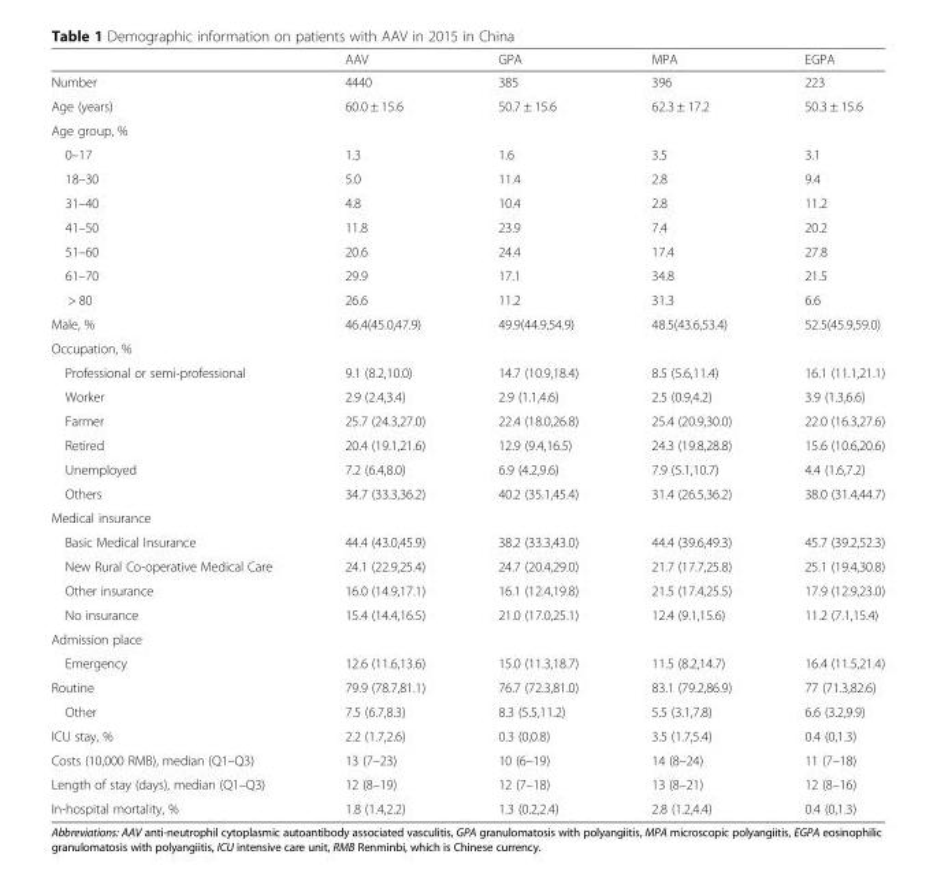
<table><thead><tr><td></td><td>AAV</td><td>GPA</td><td>MPA</td><td>EGPA</td></tr></thead><tbody><tr><td>Number</td><td>4440</td><td>385</td><td>396</td><td>223</td></tr><tr><td>Age (years)</td><td>60.0 ± 15.6</td><td>50.7 ± 15.6</td><td>62.3 ± 17.2</td><td>50.3 ± 15.6</td></tr><tr><td colspan="5">Age group, %</td></tr><tr><td>0–17</td><td>1.3</td><td>1.6</td><td>3.5</td><td>3.1</td></tr><tr><td>18–30</td><td>5.0</td><td>11.4</td><td>2.8</td><td>9.4</td></tr><tr><td>31–40</td><td>4.8</td><td>10.4</td><td>2.8</td><td>11.2</td></tr><tr><td>41–50</td><td>11.8</td><td>23.9</td><td>7.4</td><td>20.2</td></tr><tr><td>51–60</td><td>20.6</td><td>24.4</td><td>17.4</td><td>27.8</td></tr><tr><td>61–70</td><td>29.9</td><td>17.1</td><td>34.8</td><td>21.5</td></tr><tr><td>&gt; 80</td><td>26.6</td><td>11.2</td><td>31.3</td><td>6.6</td></tr><tr><td>Male, %</td><td>46.4(45.0,47.9)</td><td>49.9(44.9,54.9)</td><td>48.5(43.6,53.4)</td><td>52.5(45.9,59.0)</td></tr><tr><td colspan="5">Occupation, %</td></tr><tr><td>Professional or semi-professional</td><td>9.1 (8.2,10.0)</td><td>14.7 (10.9,18.4)</td><td>8.5 (5.6,11.4)</td><td>16.1 (11.1,21.1)</td></tr><tr><td>Worker</td><td>2.9 (2.4,3.4)</td><td>2.9 (1.1,4.6)</td><td>2.5 (0.9,4.2)</td><td>3.9 (1.3,6.6)</td></tr><tr><td>Farmer</td><td>25.7 (24.3,27.0)</td><td>22.4 (18.0,26.8)</td><td>25.4 (20.9,30.0)</td><td>22.0 (16.3,27.6)</td></tr><tr><td>Retired</td><td>20.4 (19.1,21.6)</td><td>12.9 (9.4,16.5)</td><td>24.3 (19.8,28.8)</td><td>15.6 (10.6,20.6)</td></tr><tr><td>Unemployed</td><td>7.2 (6.4,8.0)</td><td>6.9 (4.2,9.6)</td><td>7.9 (5.1,10.7)</td><td>4.4 (1.6,7.2)</td></tr><tr><td>Others</td><td>34.7 (33.3,36.2)</td><td>40.2 (35.1,45.4)</td><td>31.4 (26.5,36.2)</td><td>38.0 (31.4,44.7)</td></tr><tr><td colspan="5">Medical insurance</td></tr><tr><td>Basic Medical Insurance</td><td>44.4 (43.0,45.9)</td><td>38.2 (33.3,43.0)</td><td>44.4 (39.6,49.3)</td><td>45.7 (39.2,52.3)</td></tr><tr><td>New Rural Co-operative Medical Care</td><td>24.1 (22.9,25.4)</td><td>24.7 (20.4,29.0)</td><td>21.7 (17.7,25.8)</td><td>25.1 (19.4,30.8)</td></tr><tr><td>Other insurance</td><td>16.0 (14.9,17.1)</td><td>16.1 (12.4,19.8)</td><td>21.5 (17.4,25.5)</td><td>17.9 (12.9,23.0)</td></tr><tr><td>No insurance</td><td>15.4 (14.4,16.5)</td><td>21.0 (17.0,25.1)</td><td>12.4 (9.1,15.6)</td><td>11.2 (7.1,15.4)</td></tr><tr><td colspan="5">Admission place</td></tr><tr><td>Emergency</td><td>12.6 (11.6,13.6)</td><td>15.0 (11.3,18.7)</td><td>11.5 (8.2,14.7)</td><td>16.4 (11.5,21.4)</td></tr><tr><td>Routine</td><td>79.9 (78.7,81.1)</td><td>76.7 (72.3,81.0)</td><td>83.1 (79.2,86.9)</td><td>77 (71.3,82.6)</td></tr><tr><td>Other</td><td>7.5 (6.7,8.3)</td><td>8.3 (5.5,11.2)</td><td>5.5 (3.1,7.8)</td><td>6.6 (3.2,9.9)</td></tr><tr><td>ICU stay, %</td><td>2.2 (1.7,2.6)</td><td>0.3 (0,0.8)</td><td>3.5 (1.7,5.4)</td><td>0.4 (0,1.3)</td></tr><tr><td>Costs (10,000 RMB), median (Q1–Q3)</td><td>13 (7–23)</td><td>10 (6–19)</td><td>14 (8–24)</td><td>11 (7–18)</td></tr><tr><td>Length of stay (days), median (Q1–Q3)</td><td>12 (8–19)</td><td>12 (7–18)</td><td>13 (8–21)</td><td>12 (8–16)</td></tr><tr><td>In-hospital mortality, %</td><td>1.8 (1.4,2.2)</td><td>1.3 (0.2,2.4)</td><td>2.8 (1.2,4.4)</td><td>0.4 (0,1.3)</td></tr></tbody></table>